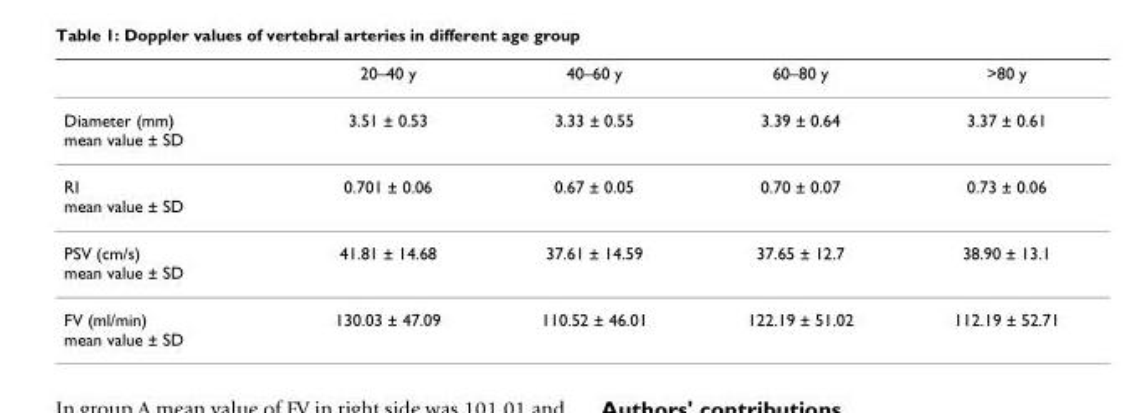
<table><thead><tr><td></td><td>20–40 y</td><td>40–60 y</td><td>60–80 y</td><td>&gt;80 y</td></tr></thead><tbody><tr><td>Diameter (mm) mean value ± SD</td><td>3.51 ± 0.53</td><td>3.33 ± 0.55</td><td>3.39 ± 0.64</td><td>3.37 ± 0.61</td></tr><tr><td>RI mean value ± SD</td><td>0.701 ± 0.06</td><td>0.67 ± 0.05</td><td>0.70 ± 0.07</td><td>0.73 ± 0.06</td></tr><tr><td>PSV (cm/s) mean value ± SD</td><td>41.81 ± 14.68</td><td>37.61 ± 14.59</td><td>37.65 ± 12.7</td><td>38.90 ± 13.1</td></tr><tr><td>FV (ml/min) mean value ± SD</td><td>130.03 ± 47.09</td><td>110.52 ± 46.01</td><td>122.19 ± 51.02</td><td>112.19 ± 52.71</td></tr></tbody></table>